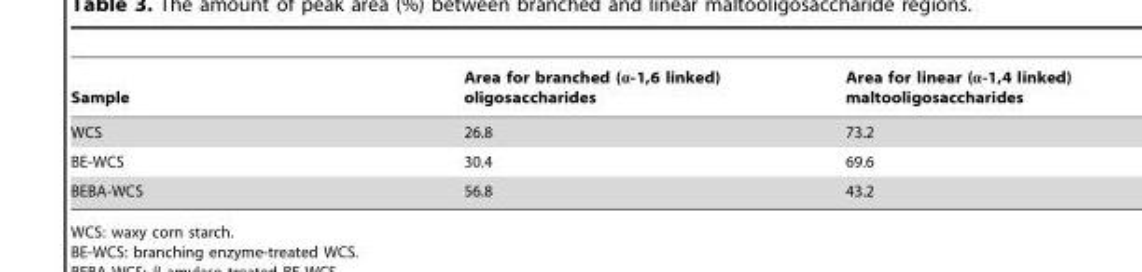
<table><thead><tr><td>Sample</td><td>Area for branched (α-1,6 linked) oligosaccharides</td><td>Area for linear (α-1,4 linked) maltooligosaccharides</td></tr></thead><tbody><tr><td>WCS</td><td>26.8</td><td>73.2</td></tr><tr><td>BE-WCS</td><td>30.4</td><td>69.6</td></tr><tr><td>BEBA-WCS</td><td>56.8</td><td>43.2</td></tr></tbody></table>